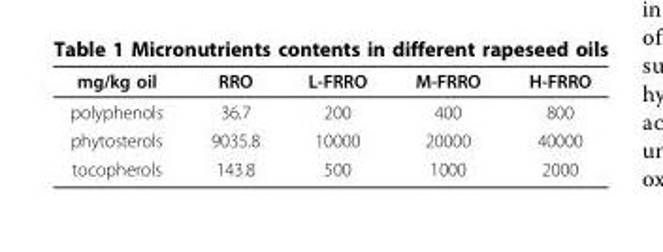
<table><thead><tr><td>mg/kg oil</td><td>RRO</td><td>L-FRRO</td><td>M-FRRO</td><td>H-FRRO</td></tr></thead><tbody><tr><td>polyphenols</td><td>36.7</td><td>200</td><td>400</td><td>800</td></tr><tr><td>phytosterols</td><td>9035.8</td><td>10000</td><td>20000</td><td>40000</td></tr><tr><td>tocopherols</td><td>143.8</td><td>500</td><td>1000</td><td>2000</td></tr></tbody></table>